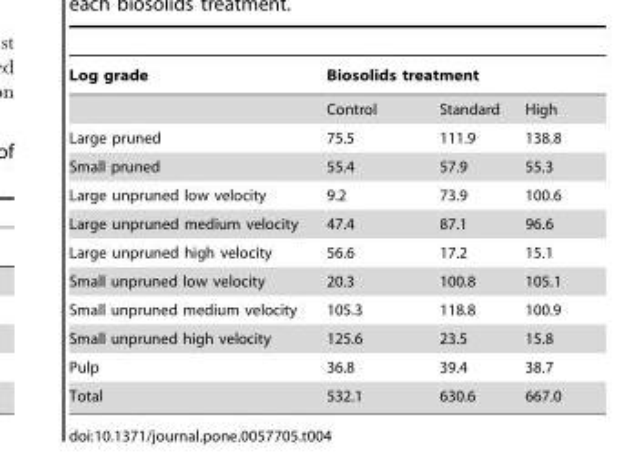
<table><thead><tr><td rowspan="2">Log grade</td><td colspan="3">Biosolids treatment</td></tr><tr><td>Control</td><td>Standard</td><td>High</td></tr></thead><tbody><tr><td>Large pruned</td><td>75.5</td><td>111.9</td><td>138.8</td></tr><tr><td>Small pruned</td><td>55.4</td><td>57.9</td><td>55.3</td></tr><tr><td>Large unpruned low velocity</td><td>9.2</td><td>73.9</td><td>100.6</td></tr><tr><td>Large unpruned medium velocity</td><td>47.4</td><td>87.1</td><td>96.6</td></tr><tr><td>Large unpruned high velocity</td><td>56.6</td><td>17.2</td><td>15.1</td></tr><tr><td>Small unpruned low velocity</td><td>20.3</td><td>100.8</td><td>105.1</td></tr><tr><td>Small unpruned medium velocity</td><td>105.3</td><td>118.8</td><td>100.9</td></tr><tr><td>Small unpruned high velocity</td><td>125.6</td><td>23.5</td><td>15.8</td></tr><tr><td>Pulp</td><td>36.8</td><td>39.4</td><td>38.7</td></tr><tr><td>Total</td><td>532.1</td><td>630.6</td><td>667.0</td></tr></tbody></table>